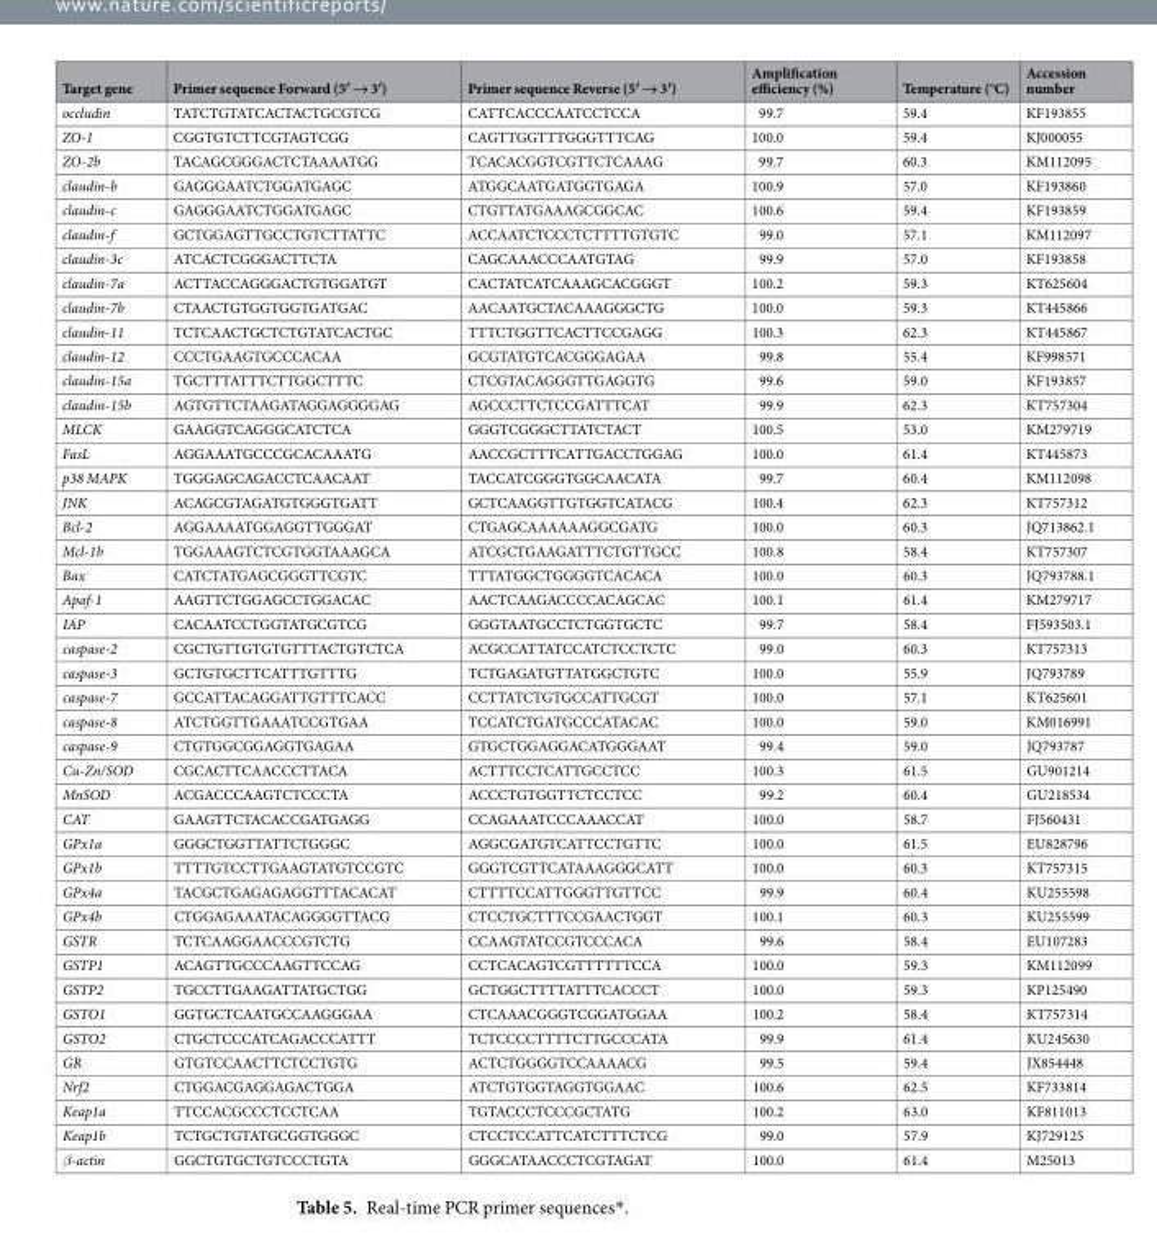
<table><thead><tr><td>Target gene</td><td>Primer sequence Forward (5′ → 3′)</td><td>Primer sequence Reverse (5′ → 3′)</td><td>Amplification efficiency (%)</td><td>Temperature (°C)</td><td>Accession number</td></tr></thead><tbody><tr><td>occludin</td><td>TATCTGTATCACTACTGCGTCG</td><td>CATTCACCCAATCCTCCA</td><td>99.7</td><td>59.4</td><td>KF193855</td></tr><tr><td>ZO-1</td><td>CGGTGTCTTCGTAGTCGG</td><td>CAGTTGGTTTGGGTTTCAG</td><td>100.0</td><td>59.4</td><td>KJ000055</td></tr><tr><td>ZO-2b</td><td>TACAGCGGGACTCTAAAATGG</td><td>TCACACGGTCGTTCTCAAAG</td><td>99.7</td><td>60.3</td><td>KM112095</td></tr><tr><td>claudin-b</td><td>GAGGGAATCTGGATGAGC</td><td>ATGGCAATGATGGTGAGA</td><td>100.9</td><td>57.0</td><td>KF193860</td></tr><tr><td>claudin-c</td><td>GAGGGAATCTGGATGAGC</td><td>CTGTTATGAAAGCGGCAC</td><td>100.6</td><td>59.4</td><td>KF193859</td></tr><tr><td>claudin-f</td><td>GCTGGAGTTGCCTGTCTTATTC</td><td>ACCAATCTCCCTCTTTTGTGTC</td><td>99.0</td><td>57.1</td><td>KM112097</td></tr><tr><td>claudin-3c</td><td>ATCACTCGGGACTTCTA</td><td>CAGCAAACCCAATGTAG</td><td>99.9</td><td>57.0</td><td>KF193858</td></tr><tr><td>claudin-7a</td><td>ACTTACCAGGGACTGTGGATGT</td><td>CACTATCATCAAAGCACGGGT</td><td>100.2</td><td>59.3</td><td>KT625604</td></tr><tr><td>claudin-7b</td><td>CTAACTGTGGTGGTGATGAC</td><td>AACAATGCTACAAAGGGCTG</td><td>100.0</td><td>59.3</td><td>KT445866</td></tr><tr><td>claudin-11</td><td>TCTCAACTGCTCTGTATCACTGC</td><td>TTTCTGGTTCACTTCCGAGG</td><td>100.3</td><td>62.3</td><td>KT445867</td></tr><tr><td>claudin-12</td><td>CCCTGAAGTGCCCACAA</td><td>GCGTATGTCACGGGAGAA</td><td>99.8</td><td>55.4</td><td>KF998571</td></tr><tr><td>claudin-15a</td><td>TGCTTTATTTCTTGGCTTTC</td><td>CTCGTACAGGGTTGAGGTG</td><td>99.6</td><td>59.0</td><td>KF193857</td></tr><tr><td>claudin-15b</td><td>AGTGTTCTAAGATAGGAGGGGAG</td><td>AGCCCTTCTCCGATTTCAT</td><td>99.9</td><td>62.3</td><td>KT757304</td></tr><tr><td>MLCK</td><td>GAAGGTCAGGGCATCTCA</td><td>GGGTCGGGCTTATCTACT</td><td>100.5</td><td>53.0</td><td>KM279719</td></tr><tr><td>FasL</td><td>AGGAAATGCCCGCACAAATG</td><td>AACCGCTTTCATTGACCTGGAG</td><td>100.0</td><td>61.4</td><td>KT445873</td></tr><tr><td>p38 MAPK</td><td>TGGGAGCAGACCTCAACAAT</td><td>TACCATCGGGTGGCAACATA</td><td>99.7</td><td>60.4</td><td>KM112098</td></tr><tr><td>JNK</td><td>ACAGCGTAGATGTGGGTGATT</td><td>GCTCAAGGTTGTGGTCATACG</td><td>100.4</td><td>62.3</td><td>KT757312</td></tr><tr><td>Bcl-2</td><td>AGGAAAATGGAGGTTGGGAT</td><td>CTGAGCAAAAAAGGCGATG</td><td>100.0</td><td>60.3</td><td>JQ713862.1</td></tr><tr><td>Mcl-1b</td><td>TGGAAAGTCTCGTGGTAAAGCA</td><td>ATCGCTGAAGATTTCTGTTGCC</td><td>100.8</td><td>58.4</td><td>KT757307</td></tr><tr><td>Bax</td><td>CATCTATGAGCGGGTTCGTC</td><td>TTTATGGCTGGGGTCACACA</td><td>100.0</td><td>60.3</td><td>JQ793788.1</td></tr><tr><td>Apaf-1</td><td>AAGTTCTGGAGCCTGGACAC</td><td>AACTCAAGACCCCACAGCAC</td><td>100.1</td><td>61.4</td><td>KM279717</td></tr><tr><td>IAP</td><td>CACAATCCTGGTATGCGTCG</td><td>GGGTAATGCCTCTGGTGCTC</td><td>99.7</td><td>58.4</td><td>FJ593503.1</td></tr><tr><td>caspase-2</td><td>CGCTGTTGTGTGTTTACTGTCTCA</td><td>ACGCCATTATCCATCTCCTCTC</td><td>99.0</td><td>60.3</td><td>KT757313</td></tr><tr><td>caspase-3</td><td>GCTGTGCTTCATTTGTTTG</td><td>TCTGAGATGTTATGGCTGTC</td><td>100.0</td><td>55.9</td><td>JQ793789</td></tr><tr><td>caspase-7</td><td>GCCATTACAGGATTGTTTCACC</td><td>CCTTATCTGTGCCATTGCGT</td><td>100.0</td><td>57.1</td><td>KT625601</td></tr><tr><td>caspase-8</td><td>ATCTGGTTGAAATCCGTGAA</td><td>TCCATCTGATGCCCATACAC</td><td>100.0</td><td>59.0</td><td>KM016991</td></tr><tr><td>caspase-9</td><td>CTGTGGCGGAGGTGAGAA</td><td>GTGCTGGAGGACATGGGAAT</td><td>99.4</td><td>59.0</td><td>JQ793787</td></tr><tr><td>Cu-Zn/SOD</td><td>CGCACTTCAACCCTTACA</td><td>ACTTTCCTCATTGCCTCC</td><td>100.3</td><td>61.5</td><td>GU901214</td></tr><tr><td>MnSOD</td><td>ACGACCCAAGTCTCCCTA</td><td>ACCCTGTGGTTCTCCTCC</td><td>99.2</td><td>60.4</td><td>GU218534</td></tr><tr><td>CAT</td><td>GAAGTTCTACACCGATGAGG</td><td>CCAGAAATCCCAAACCAT</td><td>100.0</td><td>58.7</td><td>FJ560431</td></tr><tr><td>GPx1a</td><td>GGGCTGGTTATTCTGGGC</td><td>AGGCGATGTCATTCCTGTTC</td><td>100.0</td><td>61.5</td><td>EU828796</td></tr><tr><td>GPx1b</td><td>TTTTGTCCTTGAAGTATGTCCGTC</td><td>GGGTCGTTCATAAAGGGCATT</td><td>100.0</td><td>60.3</td><td>KT757315</td></tr><tr><td>GPx4a</td><td>TACGCTGAGAGAGGTTTACACAT</td><td>CTTTTCCATTGGGTTGTTCC</td><td>99.9</td><td>60.4</td><td>KU255598</td></tr><tr><td>GPx4b</td><td>CTGGAGAAATACAGGGGTTACG</td><td>CTCCTGCTTTCCGAACTGGT</td><td>100.1</td><td>60.3</td><td>KU255599</td></tr><tr><td>GSTR</td><td>TCTCAAGGAACCCGTCTG</td><td>CCAAGTATCCGTCCCACA</td><td>99.6</td><td>58.4</td><td>EU107283</td></tr><tr><td>GSTP1</td><td>ACAGTTGCCCAAGTTCCAG</td><td>CCTCACAGTCGTTTTTTCCA</td><td>100.0</td><td>59.3</td><td>KM112099</td></tr><tr><td>GSTP2</td><td>TGCCTTGAAGATTATGCTGG</td><td>GCTGGCTTTTATTTCACCCT</td><td>100.0</td><td>59.3</td><td>KP125490</td></tr><tr><td>GSTO1</td><td>GGTGCTCAATGCCAAGGGAA</td><td>CTCAAACGGGTCGGATGGAA</td><td>100.2</td><td>58.4</td><td>KT757314</td></tr><tr><td>GSTO2</td><td>CTGCTCCCATCAGACCCATTT</td><td>TCTCCCCTTTTCTTGCCCATA</td><td>99.9</td><td>61.4</td><td>KU245630</td></tr><tr><td>GR</td><td>GTGTCCAACTTCTCCTGTG</td><td>ACTCTGGGGTCCAAAACG</td><td>99.5</td><td>59.4</td><td>JX854448</td></tr><tr><td>Nrf2</td><td>CTGGACGAGGAGACTGGA</td><td>ATCTGTGGTAGGTGGAAC</td><td>100.6</td><td>62.5</td><td>KF733814</td></tr><tr><td>Keap1a</td><td>TTCCACGCCCTCCTCAA</td><td>TGTACCCTCCCGCTATG</td><td>100.2</td><td>63.0</td><td>KF811013</td></tr><tr><td>Keap1b</td><td>TCTGCTGTATGCGGTGGGC</td><td>CTCCTCCATTCATCTTTCTCG</td><td>99.0</td><td>57.9</td><td>KJ729125</td></tr><tr><td>β-actin</td><td>GGCTGTGCTGTCCCTGTA</td><td>GGGCATAACCCTCGTAGAT</td><td>100.0</td><td>61.4</td><td>M25013</td></tr></tbody></table>